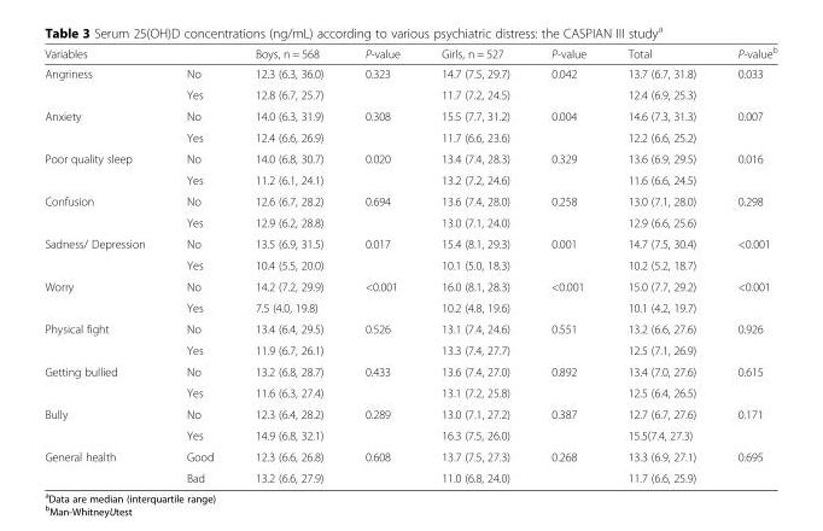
<table><thead><tr><td>Variables</td><td></td><td>Boys, n = 568</td><td>P-value</td><td>Girls, n = 527</td><td>P-value</td><td>Total</td><td>P-value<sup>b</sup></td></tr></thead><tbody><tr><td rowspan="2">Angriness</td><td>No</td><td>12.3 (6.3, 36.0)</td><td>0.323</td><td>14.7 (7.5, 29.7)</td><td>0.042</td><td>13.7 (6.7, 31.8)</td><td>0.033</td></tr><tr><td>Yes</td><td>12.8 (6.7, 25.7)</td><td></td><td>11.7 (7.2, 24.5)</td><td></td><td>12.4 (6.9, 25.3)</td><td></td></tr><tr><td rowspan="2">Anxiety</td><td>No</td><td>14.0 (6.3, 31.9)</td><td>0.308</td><td>15.5 (7.7, 31.2)</td><td>0.004</td><td>14.6 (7.3, 31.3)</td><td>0.007</td></tr><tr><td>Yes</td><td>12.4 (6.6, 26.9)</td><td></td><td>11.7 (6.6, 23.6)</td><td></td><td>12.2 (6.6, 25.2)</td><td></td></tr><tr><td rowspan="2">Poor quality sleep</td><td>No</td><td>14.0 (6.8, 30.7)</td><td>0.020</td><td>13.4 (7.4, 28.3)</td><td>0.329</td><td>13.6 (6.9, 29.5)</td><td>0.016</td></tr><tr><td>Yes</td><td>11.2 (6.1, 24.1)</td><td></td><td>13.2 (7.2, 24.6)</td><td></td><td>11.6 (6.6, 24.5)</td><td></td></tr><tr><td rowspan="2">Confusion</td><td>No</td><td>12.6 (6.7, 28.2)</td><td>0.694</td><td>13.6 (7.4, 28.0)</td><td>0.258</td><td>13.0 (7.1, 28.0)</td><td>0.298</td></tr><tr><td>Yes</td><td>12.9 (6.2, 28.8)</td><td></td><td>13.0 (7.1, 24.0)</td><td></td><td>12.9 (6.6, 25.6)</td><td></td></tr><tr><td rowspan="2">Sadness/ Depression</td><td>No</td><td>13.5 (6.9, 31.5)</td><td>0.017</td><td>15.4 (8.1, 29.3)</td><td>0.001</td><td>14.7 (7.5, 30.4)</td><td>&lt;0.001</td></tr><tr><td>Yes</td><td>10.4 (5.5, 20.0)</td><td></td><td>10.1 (5.0, 18.3)</td><td></td><td>10.2 (5.2, 18.7)</td><td></td></tr><tr><td rowspan="2">Worry</td><td>No</td><td>14.2 (7.2, 29.9)</td><td>&lt;0.001</td><td>16.0 (8.1, 28.3)</td><td>&lt;0.001</td><td>15.0 (7.7, 29.2)</td><td>&lt;0.001</td></tr><tr><td>Yes</td><td>7.5 (4.0, 19.8)</td><td></td><td>10.2 (4.8, 19.6)</td><td></td><td>10.1 (4.2, 19.7)</td><td></td></tr><tr><td rowspan="2">Physical fight</td><td>No</td><td>13.4 (6.4, 29.5)</td><td>0.526</td><td>13.1 (7.4, 24.6)</td><td>0.551</td><td>13.2 (6.6, 27.6)</td><td>0.926</td></tr><tr><td>Yes</td><td>11.9 (6.7, 26.1)</td><td></td><td>13.3 (7.4, 27.7)</td><td></td><td>12.5 (7.1, 26.9)</td><td></td></tr><tr><td rowspan="2">Getting bullied</td><td>No</td><td>13.2 (6.8, 28.7)</td><td>0.433</td><td>13.6 (7.4, 27.0)</td><td>0.892</td><td>13.4 (7.0, 27.6)</td><td>0.615</td></tr><tr><td>Yes</td><td>11.6 (6.3, 27.4)</td><td></td><td>13.1 (7.2, 25.8)</td><td></td><td>12.5 (6.4, 26.5)</td><td></td></tr><tr><td rowspan="2">Bully</td><td>No</td><td>12.3 (6.4, 28.2)</td><td>0.289</td><td>13.0 (7.1, 27.2)</td><td>0.387</td><td>12.7 (6.7, 27.6)</td><td>0.171</td></tr><tr><td>Yes</td><td>14.9 (6.8, 32.1)</td><td></td><td>16.3 (7.5, 26.0)</td><td></td><td>15.5(7.4, 27.3)</td><td></td></tr><tr><td rowspan="2">General health</td><td>Good</td><td>12.3 (6.6, 26.8)</td><td>0.608</td><td>13.7 (7.5, 27.3)</td><td>0.268</td><td>13.3 (6.9, 27.1)</td><td>0.695</td></tr><tr><td>Bad</td><td>13.2 (6.6, 27.9)</td><td></td><td>11.0 (6.8, 24.0)</td><td></td><td>11.7 (6.6, 25.9)</td><td></td></tr></tbody></table>